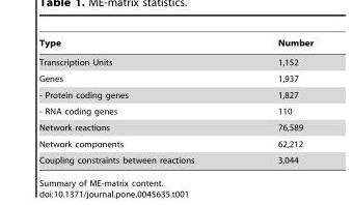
<table><thead><tr><td>Type</td><td>Number</td></tr></thead><tbody><tr><td>Transcription Units</td><td>1,152</td></tr><tr><td>Genes</td><td>1,937</td></tr><tr><td>- Protein coding genes</td><td>1,827</td></tr><tr><td>- RNA coding genes</td><td>110</td></tr><tr><td>Network reactions</td><td>76,589</td></tr><tr><td>Network components</td><td>62,212</td></tr><tr><td>Coupling constraints between reactions</td><td>3,044</td></tr></tbody></table>